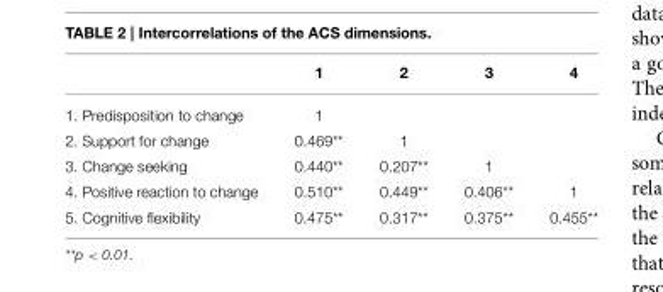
<table><thead><tr><td></td><td>1</td><td>2</td><td>3</td><td>4</td></tr></thead><tbody><tr><td>1. Predisposition to change</td><td>1</td><td></td><td></td><td></td></tr><tr><td>2. Support for change</td><td>0.469**</td><td>1</td><td></td><td></td></tr><tr><td>3. Change seeking</td><td>0.440**</td><td>0.207**</td><td>1</td><td></td></tr><tr><td>4. Positive reaction to change</td><td>0.510**</td><td>0.449**</td><td>0.406**</td><td>1</td></tr><tr><td>5. Cognitive flexibility</td><td>0.475**</td><td>0.317**</td><td>0.375**</td><td>0.455**</td></tr></tbody></table>